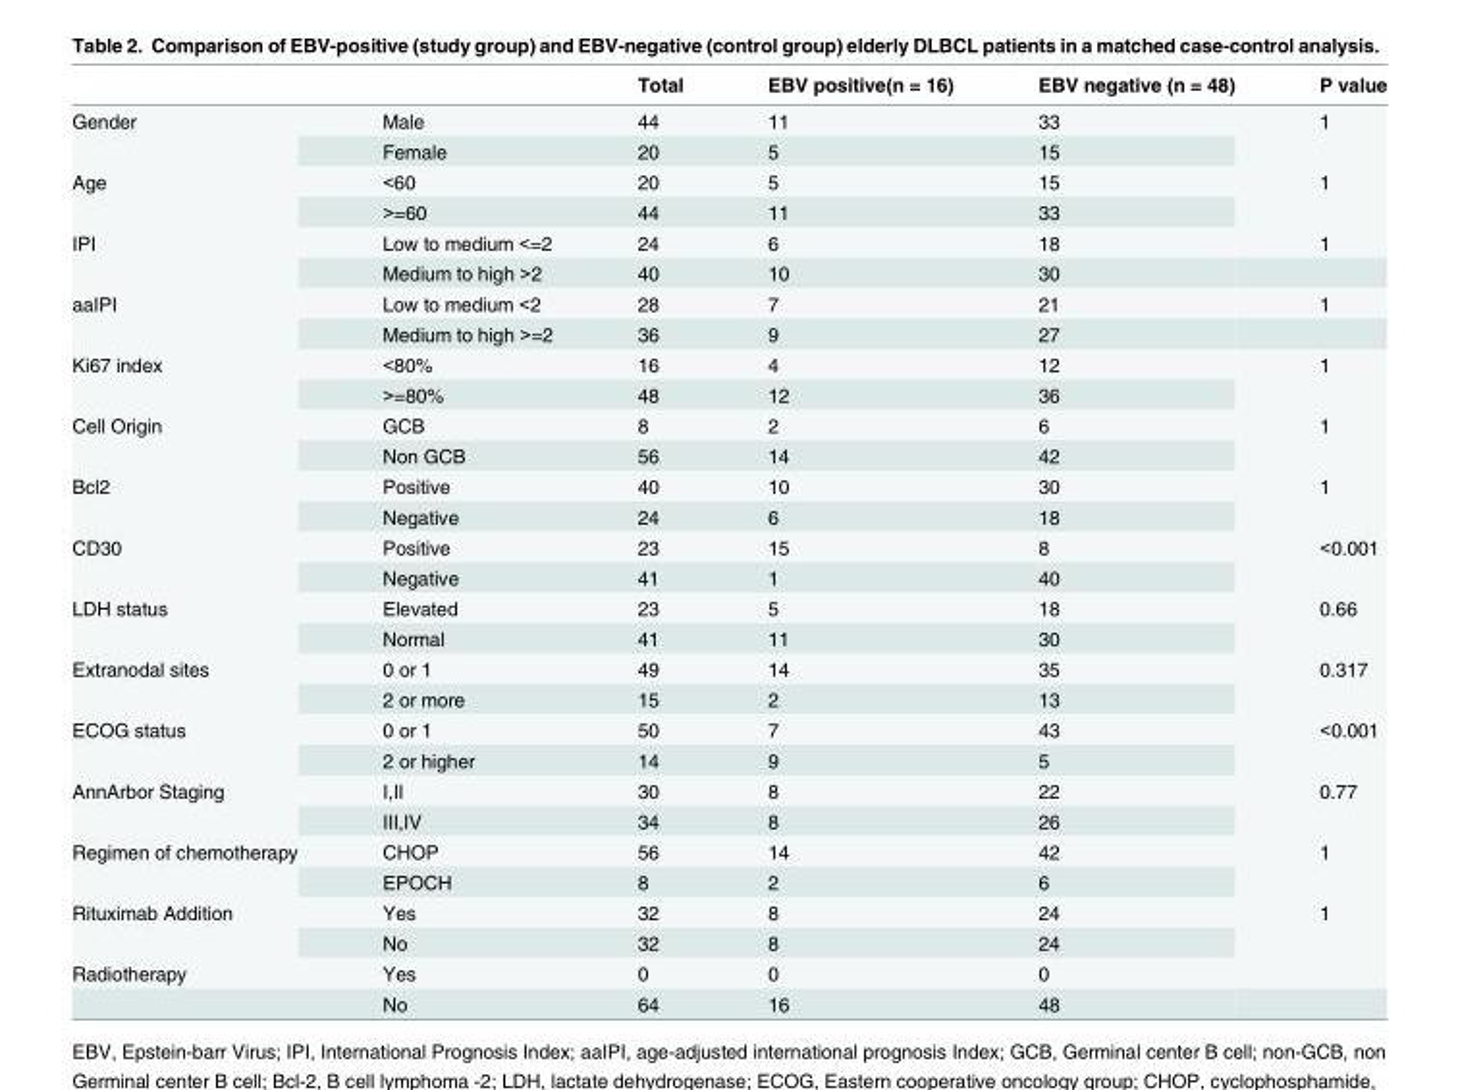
<table><thead><tr><td></td><td></td><td>Total</td><td>EBV positive(n = 16)</td><td>EBV negative (n = 48)</td><td>P value</td></tr></thead><tbody><tr><td rowspan="2">Gender</td><td>Male</td><td>44</td><td>11</td><td>33</td><td rowspan="2">1</td></tr><tr><td>Female</td><td>20</td><td>5</td><td>15</td></tr><tr><td rowspan="2">Age</td><td>&lt;60</td><td>20</td><td>5</td><td>15</td><td rowspan="2">1</td></tr><tr><td>&gt;=60</td><td>44</td><td>11</td><td>33</td></tr><tr><td rowspan="2">IPI</td><td>Low to medium &lt;=2</td><td>24</td><td>6</td><td>18</td><td>1</td></tr><tr><td>Medium to high &gt;2</td><td>40</td><td>10</td><td>30</td><td></td></tr><tr><td rowspan="2">aaIPI</td><td>Low to medium &lt;2</td><td>28</td><td>7</td><td>21</td><td>1</td></tr><tr><td>Medium to high &gt;=2</td><td>36</td><td>9</td><td>27</td><td></td></tr><tr><td rowspan="2">Ki67 index</td><td>&lt;80%</td><td>16</td><td>4</td><td>12</td><td rowspan="2">1</td></tr><tr><td>&gt;=80%</td><td>48</td><td>12</td><td>36</td></tr><tr><td rowspan="2">Cell Origin</td><td>GCB</td><td>8</td><td>2</td><td>6</td><td rowspan="2">1</td></tr><tr><td>Non GCB</td><td>56</td><td>14</td><td>42</td></tr><tr><td rowspan="2">Bcl2</td><td>Positive</td><td>40</td><td>10</td><td>30</td><td rowspan="2">1</td></tr><tr><td>Negative</td><td>24</td><td>6</td><td>18</td></tr><tr><td rowspan="2">CD30</td><td>Positive</td><td>23</td><td>15</td><td>8</td><td rowspan="2">&lt;0.001</td></tr><tr><td>Negative</td><td>41</td><td>1</td><td>40</td></tr><tr><td rowspan="2">LDH status</td><td>Elevated</td><td>23</td><td>5</td><td>18</td><td rowspan="2">0.66</td></tr><tr><td>Normal</td><td>41</td><td>11</td><td>30</td></tr><tr><td rowspan="2">Extranodal sites</td><td>0 or 1</td><td>49</td><td>14</td><td>35</td><td rowspan="2">0.317</td></tr><tr><td>2 or more</td><td>15</td><td>2</td><td>13</td></tr><tr><td rowspan="2">ECOG status</td><td>0 or 1</td><td>50</td><td>7</td><td>43</td><td rowspan="2">&lt;0.001</td></tr><tr><td>2 or higher</td><td>14</td><td>9</td><td>5</td></tr><tr><td rowspan="2">AnnArbor Staging</td><td>I,II</td><td>30</td><td>8</td><td>22</td><td rowspan="2">0.77</td></tr><tr><td>III,IV</td><td>34</td><td>8</td><td>26</td></tr><tr><td rowspan="2">Regimen of chemotherapy</td><td>CHOP</td><td>56</td><td>14</td><td>42</td><td rowspan="2">1</td></tr><tr><td>EPOCH</td><td>8</td><td>2</td><td>6</td></tr><tr><td rowspan="2">Rituximab Addition</td><td>Yes</td><td>32</td><td>8</td><td>24</td><td rowspan="2">1</td></tr><tr><td>No</td><td>32</td><td>8</td><td>24</td></tr><tr><td rowspan="2">Radiotherapy</td><td>Yes</td><td>0</td><td>0</td><td>0</td><td></td></tr><tr><td>No</td><td>64</td><td>16</td><td>48</td><td></td></tr></tbody></table>